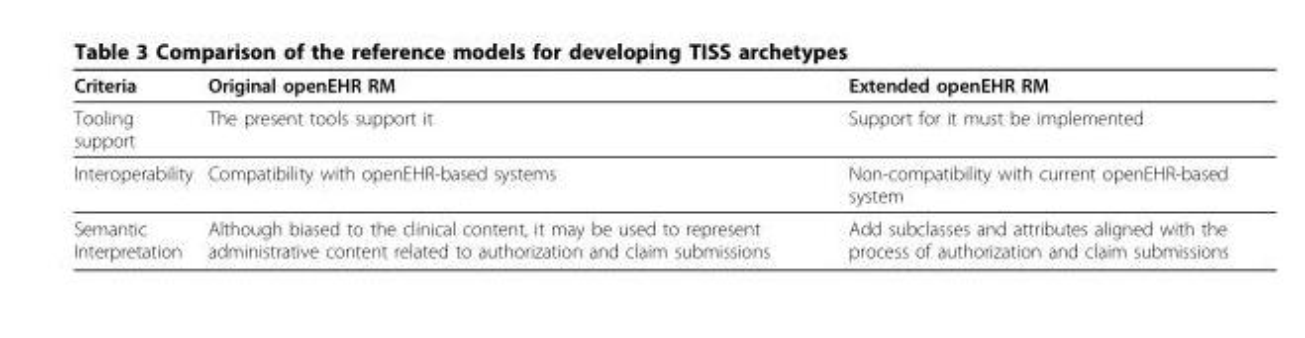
<table><thead><tr><td>Criteria</td><td>Original openEHR RM</td><td>Extended openEHR RM</td></tr></thead><tbody><tr><td>Tooling support</td><td>The present tools support it</td><td>Support for it must be implemented</td></tr><tr><td>Interoperability</td><td>Compatibility with openEHR-based systems</td><td>Non-compatibility with current openEHR-based system</td></tr><tr><td>Semantic Interpretation</td><td>Although biased to the clinical content, it may be used to represent administrative content related to authorization and claim submissions</td><td>Add subclasses and attributes aligned with the process of authorization and claim submissions</td></tr></tbody></table>